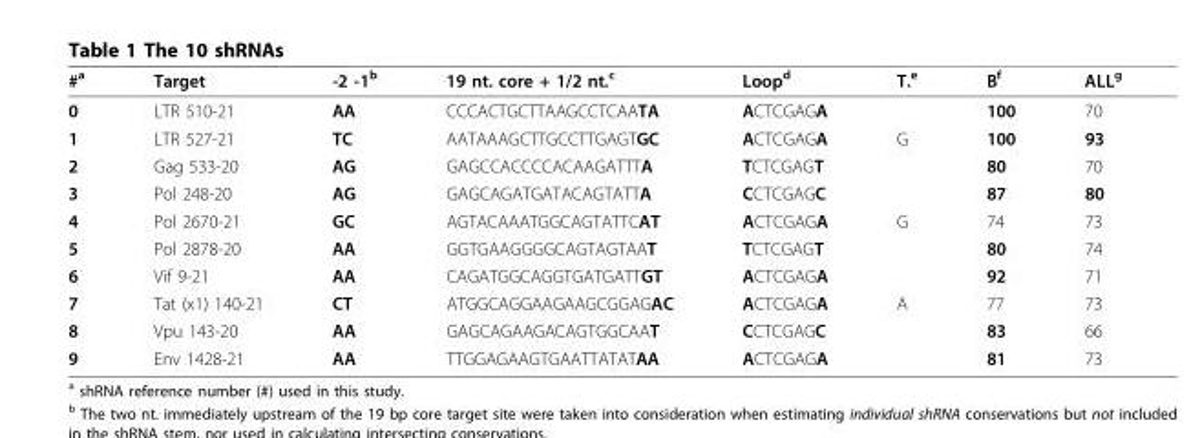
<table><thead><tr><td>#<sup>a</sup></td><td>Target</td><td>-2 -1<sup>b</sup></td><td>19 nt. core + 1/2 nt.<sup>c</sup></td><td>Loop<sup>d</sup></td><td>T.<sup>e</sup></td><td>B<sup>f</sup></td><td>ALL<sup>g</sup></td></tr></thead><tbody><tr><td>0</td><td>LTR 510-21</td><td>AA</td><td>CCCACTGCTTAAGCCTCAATA</td><td>ACTCGAGA</td><td></td><td>100</td><td>70</td></tr><tr><td>1</td><td>LTR 527-21</td><td>TC</td><td>AATAAAGCTTGCCTTGAGTGC</td><td>ACTCGAGA</td><td>G</td><td>100</td><td>93</td></tr><tr><td>2</td><td>Gag 533-20</td><td>AG</td><td>GAGCCACCCCACAAGATTTA</td><td>TCTCGAGT</td><td></td><td>80</td><td>70</td></tr><tr><td>3</td><td>Pol 248-20</td><td>AG</td><td>GAGCAGATGATACAGTATTA</td><td>CCTCGAGC</td><td></td><td>87</td><td>80</td></tr><tr><td>4</td><td>Pol 2670-21</td><td>GC</td><td>AGTACAAATGGCAGTATTCAT</td><td>ACTCGAGA</td><td>G</td><td>74</td><td>73</td></tr><tr><td>5</td><td>Pol 2878-20</td><td>AA</td><td>GGTGAAGGGGCAGTAGTAAT</td><td>TCTCGAGT</td><td></td><td>80</td><td>74</td></tr><tr><td>6</td><td>Vif 9-21</td><td>AA</td><td>CAGATGGCAGGTGATGATTGT</td><td>ACTCGAGA</td><td></td><td>92</td><td>71</td></tr><tr><td>7</td><td>Tat (x1) 140-21</td><td>CT</td><td>ATGGCAGGAAGAAGCGGAGAC</td><td>ACTCGAGA</td><td>A</td><td>77</td><td>73</td></tr><tr><td>8</td><td>Vpu 143-20</td><td>AA</td><td>GAGCAGAAGACAGTGGCAAT</td><td>CCTCGAGC</td><td></td><td>83</td><td>66</td></tr><tr><td>9</td><td>Env 1428-21</td><td>AA</td><td>TTGGAGAAGTGAATTATATAA</td><td>ACTCGAGA</td><td></td><td>81</td><td>73</td></tr></tbody></table>